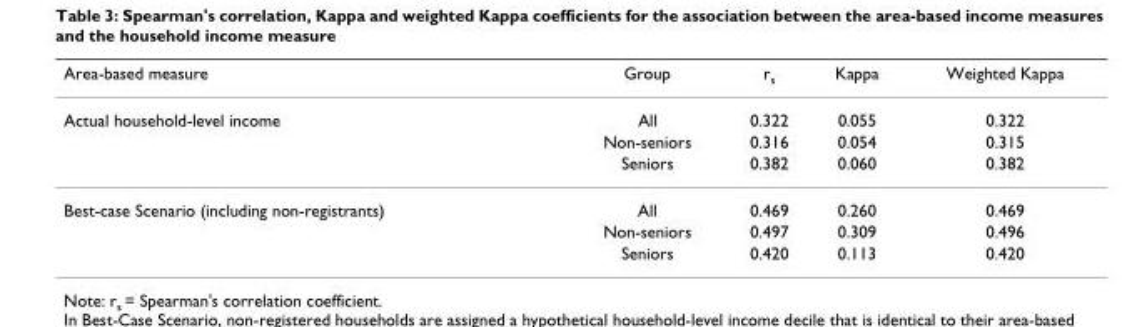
<table><thead><tr><td>Area-based measure</td><td>Group</td><td>r<sub>s</sub></td><td>Kappa</td><td>Weighted Kappa</td></tr></thead><tbody><tr><td rowspan="3">Actual household-level income</td><td>All</td><td>0.322</td><td>0.055</td><td>0.322</td></tr><tr><td>Non-seniors</td><td>0.316</td><td>0.054</td><td>0.315</td></tr><tr><td>Seniors</td><td>0.382</td><td>0.060</td><td>0.382</td></tr><tr><td rowspan="3">Best-case Scenario (including non-registrants)</td><td>All</td><td>0.469</td><td>0.260</td><td>0.469</td></tr><tr><td>Non-seniors</td><td>0.497</td><td>0.309</td><td>0.496</td></tr><tr><td>Seniors</td><td>0.420</td><td>0.113</td><td>0.420</td></tr></tbody></table>